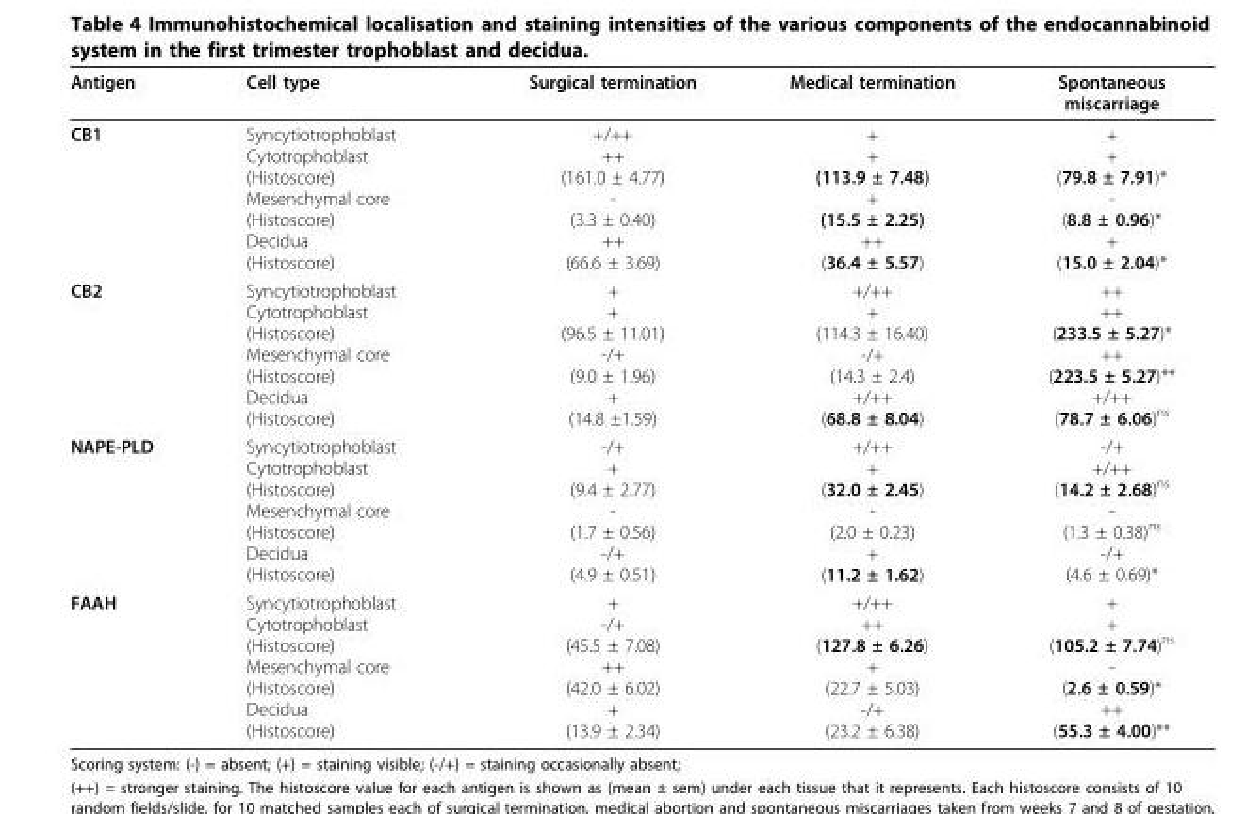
<table><thead><tr><td>Antigen</td><td>Cell type</td><td>Surgical termination</td><td>Medical termination</td><td>Spontaneous miscarriage</td></tr></thead><tbody><tr><td>CB1</td><td>Syncytiotrophoblast Cytotrophoblast (Histoscore) Mesenchymal core (Histoscore) Decidua (Histoscore)</td><td>+/++ ++ (161.0 ± 4.77) - (3.3 ± 0.40) ++ (66.6 ± 3.69)</td><td>+ + (113.9 ± 7.48) + (15.5 ± 2.25) ++ (36.4 ± 5.57)</td><td>+ + (79.8 ± 7.91)* - (8.8 ± 0.96)* + (15.0 ± 2.04)*</td></tr><tr><td>CB2</td><td>Syncytiotrophoblast Cytotrophoblast (Histoscore) Mesenchymal core (Histoscore) Decidua (Histoscore)</td><td>+ + (96.5 ± 11.01) -/+ (9.0 ± 1.96) + (14.8 ±1.59)</td><td>+/++ + (114.3 ± 16.40) -/+ (14.3 ± 2.4) +/++ (68.8 ± 8.04)</td><td>++ ++ (233.5 ± 5.27)* ++ (223.5 ± 5.27)** +/++ (78.7 ± 6.06)<sup>ns</sup></td></tr><tr><td>NAPE-PLD</td><td>Syncytiotrophoblast Cytotrophoblast (Histoscore) Mesenchymal core (Histoscore) Decidua (Histoscore)</td><td>-/+ + (9.4 ± 2.77) - (1.7 ± 0.56) -/+ (4.9 ± 0.51)</td><td>+/++ + (32.0 ± 2.45) - (2.0 ± 0.23) + (11.2 ± 1.62)</td><td>-/+ +/++ (14.2 ± 2.68)<sup>ns</sup> - (1.3 ± 0.38)<sup>ns</sup> -/+ (4.6 ± 0.69)*</td></tr><tr><td>FAAH</td><td>Syncytiotrophoblast Cytotrophoblast (Histoscore) Mesenchymal core (Histoscore) Decidua (Histoscore)</td><td>+ -/+ (45.5 ± 7.08) ++ (42.0 ± 6.02) + (13.9 ± 2.34)</td><td>+/++ ++ (127.8 ± 6.26) + (22.7 ± 5.03) -/+ (23.2 ± 6.38)</td><td>+ + (105.2 ± 7.74)<sup>ns</sup> - (2.6 ± 0.59)* ++ (55.3 ± 4.00)**</td></tr></tbody></table>